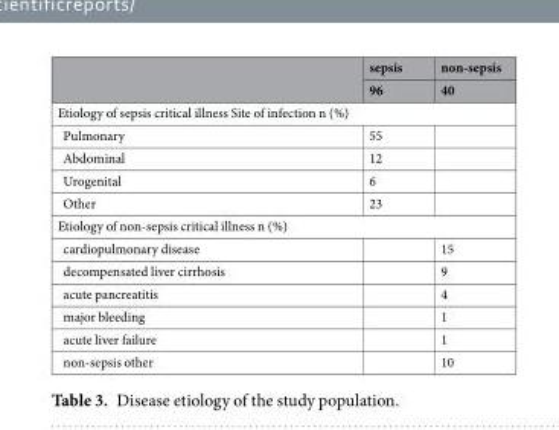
<table><thead><tr><td rowspan="2"></td><td rowspan="2">sepsis 96</td><td rowspan="2">non-sepsis 40</td></tr><tr></tr></thead><tbody><tr><td colspan="3">Etiology of sepsis critical illness Site of infection n (%)</td></tr><tr><td>Pulmonary</td><td>55</td><td></td></tr><tr><td>Abdominal</td><td>12</td><td></td></tr><tr><td>Urogenital</td><td>6</td><td></td></tr><tr><td>Other</td><td>23</td><td></td></tr><tr><td colspan="3">Etiology of non-sepsis critical illness n (%)</td></tr><tr><td>cardiopulmonary disease</td><td></td><td>15</td></tr><tr><td>decompensated liver cirrhosis</td><td></td><td>9</td></tr><tr><td>acute pancreatitis</td><td></td><td>4</td></tr><tr><td>major bleeding</td><td></td><td>1</td></tr><tr><td>acute liver failure</td><td></td><td>1</td></tr><tr><td>non-sepsis other</td><td></td><td>10</td></tr></tbody></table>